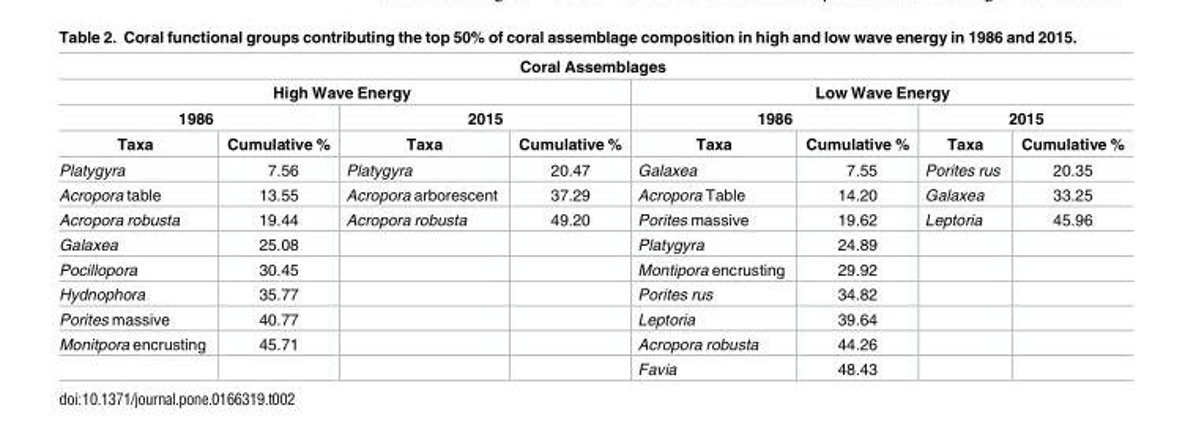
<table><thead><tr><td colspan="8">Coral Assemblages</td></tr><tr><td colspan="4">High Wave Energy</td><td colspan="4">Low Wave Energy</td></tr><tr><td colspan="2">1986</td><td colspan="2">2015</td><td colspan="2">1986</td><td colspan="2">2015</td></tr><tr><td>Taxa</td><td>Cumulative %</td><td>Taxa</td><td>Cumulative %</td><td>Taxa</td><td>Cumulative %</td><td>Taxa</td><td>Cumulative %</td></tr></thead><tbody><tr><td>Platygyra</td><td>7.56</td><td>Platygyra</td><td>20.47</td><td>Galaxea</td><td>7.55</td><td>Porites rus</td><td>20.35</td></tr><tr><td>Acropora table</td><td>13.55</td><td>Acropora arborescent</td><td>37.29</td><td>Acropora Table</td><td>14.20</td><td>Galaxea</td><td>33.25</td></tr><tr><td>Acropora robusta</td><td>19.44</td><td>Acropora robusta</td><td>49.20</td><td>Porites massive</td><td>19.62</td><td>Leptoria</td><td>45.96</td></tr><tr><td>Galaxea</td><td>25.08</td><td></td><td></td><td>Platygyra</td><td>24.89</td><td></td><td></td></tr><tr><td>Pocillopora</td><td>30.45</td><td></td><td></td><td>Montipora encrusting</td><td>29.92</td><td></td><td></td></tr><tr><td>Hydnophora</td><td>35.77</td><td></td><td></td><td>Porites rus</td><td>34.82</td><td></td><td></td></tr><tr><td>Porites massive</td><td>40.77</td><td></td><td></td><td>Leptoria</td><td>39.64</td><td></td><td></td></tr><tr><td rowspan="2">Monitpora encrusting</td><td>45.71</td><td></td><td></td><td>Acropora robusta</td><td>44.26</td><td></td><td></td></tr><tr><td></td><td></td><td></td><td>Favia</td><td>48.43</td><td></td><td></td></tr></tbody></table>